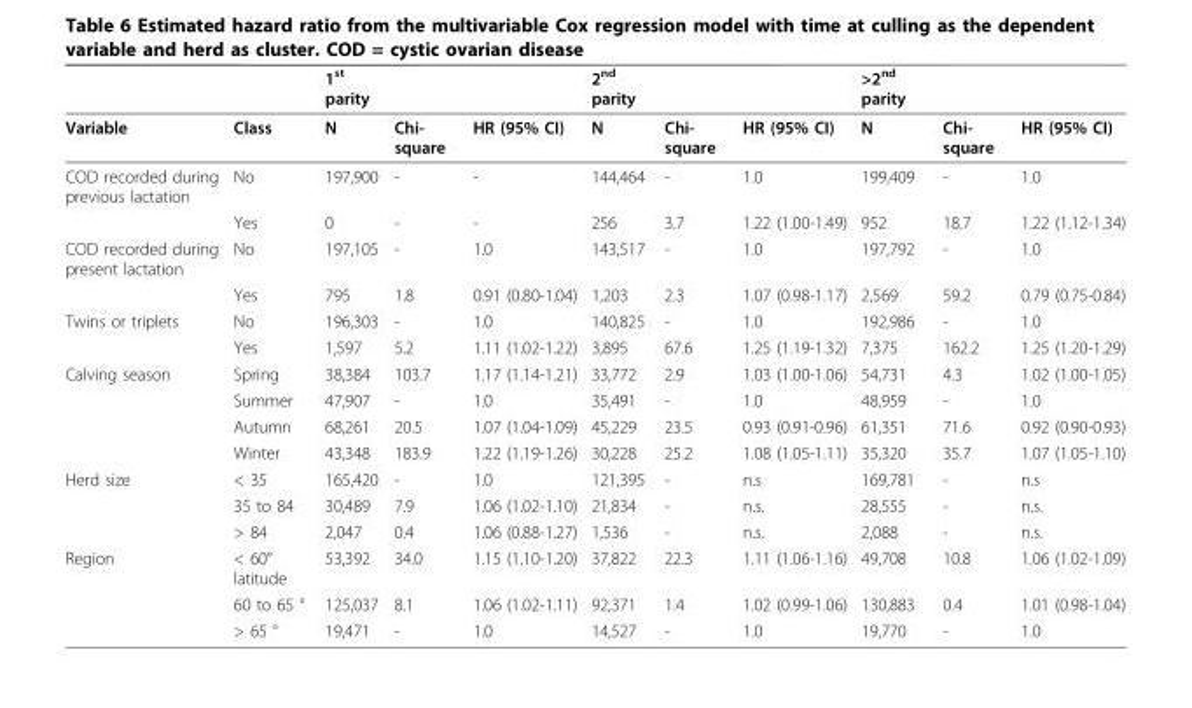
<table><thead><tr><td></td><td></td><td>1<sup>st</sup> parity</td><td></td><td></td><td>2<sup>nd</sup> parity</td><td></td><td></td><td>&gt;2<sup>nd</sup> parity</td><td></td><td></td></tr></thead><tbody><tr><td>Variable</td><td>Class</td><td>N</td><td>Chi- square</td><td>HR (95% CI)</td><td>N</td><td>Chi- square</td><td>HR (95% CI)</td><td>N</td><td>Chi- square</td><td>HR (95% CI)</td></tr><tr><td rowspan="2">COD recorded during previous lactation</td><td>No</td><td>197,900</td><td>-</td><td>-</td><td>144,464</td><td>-</td><td>1.0</td><td>199,409</td><td>-</td><td>1.0</td></tr><tr><td>Yes</td><td>0</td><td>-</td><td>-</td><td>256</td><td>3.7</td><td>1.22 (1.00-1.49)</td><td>952</td><td>18.7</td><td>1.22 (1.12-1.34)</td></tr><tr><td rowspan="2">COD recorded during present lactation</td><td>No</td><td>197,105</td><td>-</td><td>1.0</td><td>143,517</td><td>-</td><td>1.0</td><td>197,792</td><td>-</td><td>1.0</td></tr><tr><td>Yes</td><td>795</td><td>1.8</td><td>0.91 (0.80-1.04)</td><td>1,203</td><td>2.3</td><td>1.07 (0.98-1.17)</td><td>2,569</td><td>59.2</td><td>0.79 (0.75-0.84)</td></tr><tr><td rowspan="2">Twins or triplets</td><td>No</td><td>196,303</td><td>-</td><td>1.0</td><td>140,825</td><td>-</td><td>1.0</td><td>192,986</td><td>-</td><td>1.0</td></tr><tr><td>Yes</td><td>1,597</td><td>5.2</td><td>1.11 (1.02-1.22)</td><td>3,895</td><td>67.6</td><td>1.25 (1.19-1.32)</td><td>7,375</td><td>162.2</td><td>1.25 (1.20-1.29)</td></tr><tr><td rowspan="4">Calving season</td><td>Spring</td><td>38,384</td><td>103.7</td><td>1.17 (1.14-1.21)</td><td>33,772</td><td>2.9</td><td>1.03 (1.00-1.06)</td><td>54,731</td><td>4.3</td><td>1.02 (1.00-1.05)</td></tr><tr><td>Summer</td><td>47,907</td><td>-</td><td>1.0</td><td>35,491</td><td>-</td><td>1.0</td><td>48,959</td><td>-</td><td>1.0</td></tr><tr><td>Autumn</td><td>68,261</td><td>20.5</td><td>1.07 (1.04-1.09)</td><td>45,229</td><td>23.5</td><td>0.93 (0.91-0.96)</td><td>61,351</td><td>71.6</td><td>0.92 (0.90-0.93)</td></tr><tr><td>Winter</td><td>43,348</td><td>183.9</td><td>1.22 (1.19-1.26)</td><td>30,228</td><td>25.2</td><td>1.08 (1.05-1.11)</td><td>35,320</td><td>35.7</td><td>1.07 (1.05-1.10)</td></tr><tr><td rowspan="3">Herd size</td><td>&lt; 35</td><td>165,420</td><td>-</td><td>1.0</td><td>121,395</td><td>-</td><td>n.s</td><td>169,781</td><td>-</td><td>n.s</td></tr><tr><td>35 to 84</td><td>30,489</td><td>7.9</td><td>1.06 (1.02-1.10)</td><td>21,834</td><td>-</td><td>n.s.</td><td>28,555</td><td>-</td><td>n.s.</td></tr><tr><td>&gt; 84</td><td>2,047</td><td>0.4</td><td>1.06 (0.88-1.27)</td><td>1,536</td><td>-</td><td>n.s.</td><td>2,088</td><td>-</td><td>n.s.</td></tr><tr><td rowspan="3">Region</td><td>&lt; 60° latitude</td><td>53,392</td><td>34.0</td><td>1.15 (1.10-1.20)</td><td>37,822</td><td>22.3</td><td>1.11 (1.06-1.16)</td><td>49,708</td><td>10.8</td><td>1.06 (1.02-1.09)</td></tr><tr><td>60 to 65 °</td><td>125,037</td><td>8.1</td><td>1.06 (1.02-1.11)</td><td>92,371</td><td>1.4</td><td>1.02 (0.99-1.06)</td><td>130,883</td><td>0.4</td><td>1.01 (0.98-1.04)</td></tr><tr><td>&gt; 65 °</td><td>19,471</td><td>-</td><td>1.0</td><td>14,527</td><td>-</td><td>1.0</td><td>19,770</td><td>-</td><td>1.0</td></tr></tbody></table>